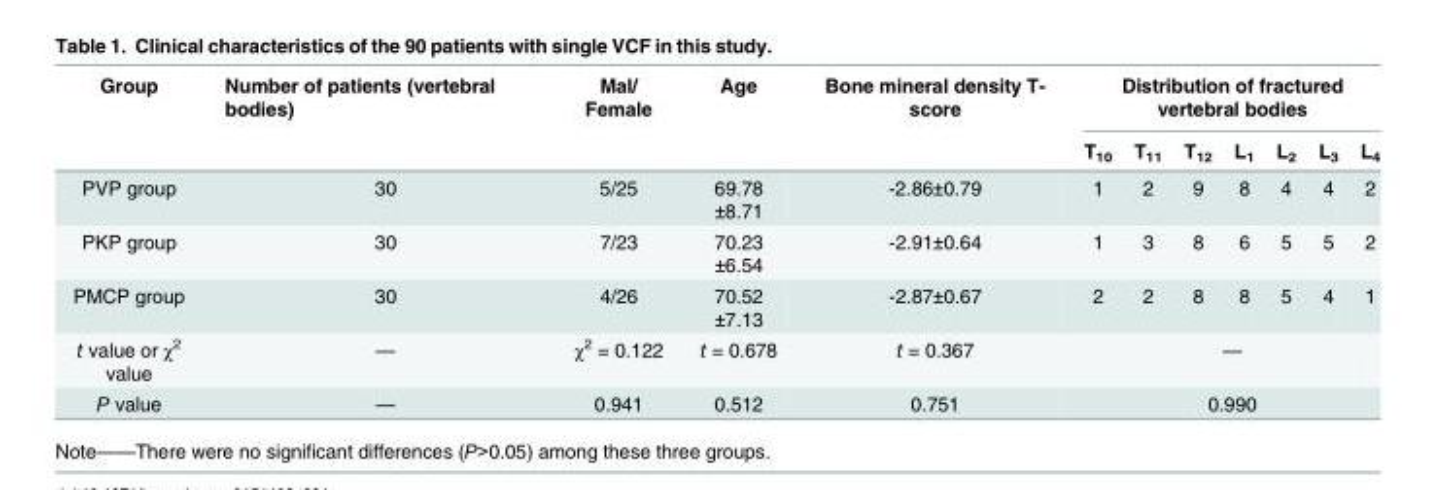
<table><thead><tr><td rowspan="2">Group</td><td rowspan="2">Number of patients (vertebral bodies)</td><td rowspan="2">Mal/ Female</td><td rowspan="2">Age</td><td rowspan="2">Bone mineral density T- score</td><td colspan="7">Distribution of fractured vertebral bodies</td></tr><tr><td>T<sub>10</sub></td><td>T<sub>11</sub></td><td>T<sub>12</sub></td><td>L<sub>1</sub></td><td>L<sub>2</sub></td><td>L<sub>3</sub></td><td>L<sub>4</sub></td></tr></thead><tbody><tr><td>PVP group</td><td>30</td><td>5/25</td><td>69.78 ±8.71</td><td>-2.86±0.79</td><td>1</td><td>2</td><td>9</td><td>8</td><td>4</td><td>4</td><td>2</td></tr><tr><td>PKP group</td><td>30</td><td>7/23</td><td>70.23 ±6.54</td><td>-2.91±0.64</td><td>1</td><td>3</td><td>8</td><td>6</td><td>5</td><td>5</td><td>2</td></tr><tr><td>PMCP group</td><td>30</td><td>4/26</td><td>70.52 ±7.13</td><td>-2.87±0.67</td><td>2</td><td>2</td><td>8</td><td>8</td><td>5</td><td>4</td><td>1</td></tr><tr><td>t value or χ<sup>2</sup> value</td><td>—</td><td>χ<sup>2</sup> = 0.122</td><td>t = 0.678</td><td>t = 0.367</td><td colspan="7">—</td></tr><tr><td>P value</td><td>—</td><td>0.941</td><td>0.512</td><td>0.751</td><td colspan="7">0.990</td></tr></tbody></table>